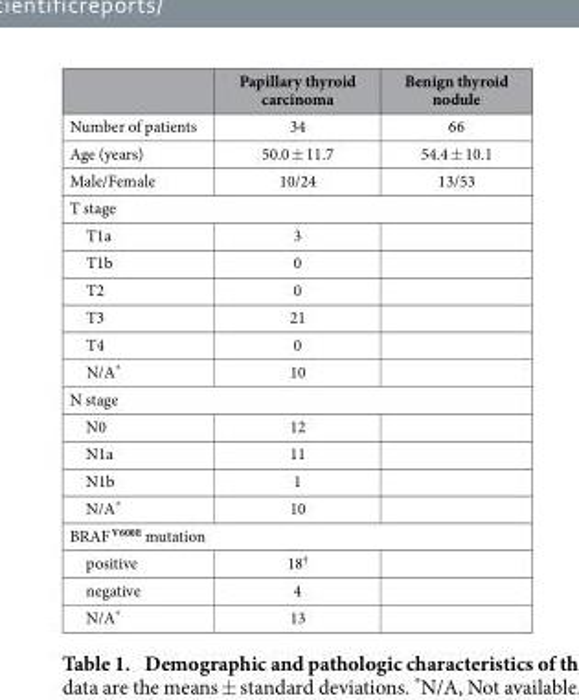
<table><thead><tr><td></td><td>Papillary thyroid carcinoma</td><td>Benign thyroid nodule</td></tr></thead><tbody><tr><td>Number of patients</td><td>34</td><td>66</td></tr><tr><td>Age (years)</td><td>50.0 ± 11.7</td><td>54.4 ± 10.1</td></tr><tr><td>Male/Female</td><td>10/24</td><td>13/53</td></tr><tr><td colspan="3">T stage</td></tr><tr><td>T1a</td><td>3</td><td></td></tr><tr><td>T1b</td><td>0</td><td></td></tr><tr><td>T2</td><td>0</td><td></td></tr><tr><td>T3</td><td>21</td><td></td></tr><tr><td>T4</td><td>0</td><td></td></tr><tr><td>N/A*</td><td>10</td><td></td></tr><tr><td colspan="3">N stage</td></tr><tr><td>N0</td><td>12</td><td></td></tr><tr><td>N1a</td><td>11</td><td></td></tr><tr><td>N1b</td><td>1</td><td></td></tr><tr><td>N/A*</td><td>10</td><td></td></tr><tr><td colspan="3">BRAF <sup>V600E</sup> mutation</td></tr><tr><td>positive</td><td>18†</td><td></td></tr><tr><td>negative</td><td>4</td><td></td></tr><tr><td>N/A*</td><td>13</td><td></td></tr></tbody></table>